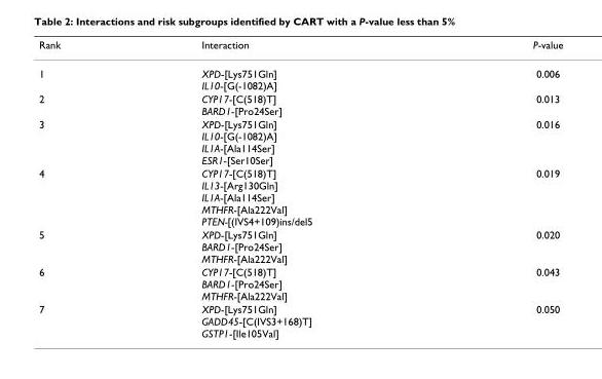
<table><thead><tr><td>Rank</td><td>Interaction</td><td>P-value</td></tr></thead><tbody><tr><td>1</td><td>XPD-[Lys751Gln] IL10-[G(-1082)A]</td><td>0.006</td></tr><tr><td>2</td><td>CYP17-[C(518)T] BARD1-[Pro24Ser]</td><td>0.013</td></tr><tr><td>3</td><td>XPD-[Lys751Gln] IL10-[G(-1082)A] IL1A-[Ala114Ser] ESR1-[Ser10Ser]</td><td>0.016</td></tr><tr><td>4</td><td>CYP17-[C(518)T] IL13-[Arg130Gln] IL1A-[Ala114Ser] MTHFR-[Ala222Val] PTEN-[(IVS4+109)ins/del5</td><td>0.019</td></tr><tr><td>5</td><td>XPD-[Lys751Gln] BARD1-[Pro24Ser] MTHFR-[Ala222Val]</td><td>0.020</td></tr><tr><td>6</td><td>CYP17-[C(518)T] BARD1-[Pro24Ser] MTHFR-[Ala222Val]</td><td>0.043</td></tr><tr><td>7</td><td>XPD-[Lys751Gln] GADD45-[C(IVS3+168)T] GSTP1-[Ile105Val]</td><td>0.050</td></tr></tbody></table>